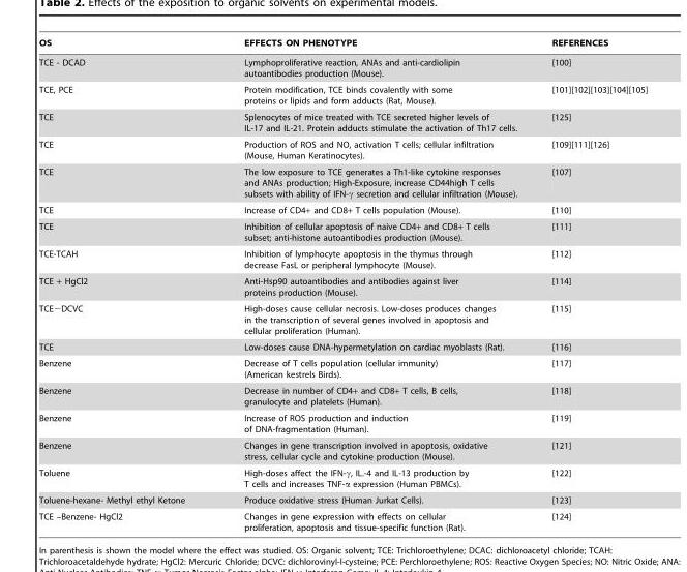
<table><thead><tr><td>OS</td><td>EFFECTS ON PHENOTYPE</td><td>REFERENCES</td></tr></thead><tbody><tr><td>TCE - DCAD</td><td>Lymphoproliferative reaction, ANAs and anti-cardiolipin autoantibodies production (Mouse).</td><td>[100]</td></tr><tr><td>TCE, PCE</td><td>Protein modification, TCE binds covalently with some proteins or lipids and form adducts (Rat, Mouse).</td><td>[101][102][103][104][105]</td></tr><tr><td>TCE</td><td>Splenocytes of mice treated with TCE secreted higher levels of IL-17 and IL-21. Protein adducts stimulate the activation of Th17 cells.</td><td>[125]</td></tr><tr><td>TCE</td><td>Production of ROS and NO, activation T cells; cellular infiltration (Mouse, Human Keratinocytes).</td><td>[109][111][126]</td></tr><tr><td>TCE</td><td>The low exposure to TCE generates a Th1-like cytokine responses and ANAs production; High-Exposure, increase CD44high T cells subsets with ability of IFN-γ secretion and cellular infiltration (Mouse).</td><td>[107]</td></tr><tr><td>TCE</td><td>Increase of CD4+ and CD8+ T cells population (Mouse).</td><td>[110]</td></tr><tr><td>TCE</td><td>Inhibition of cellular apoptosis of naive CD4+ and CD8+ T cells subset; anti-histone autoantibodies production (Mouse).</td><td>[111]</td></tr><tr><td>TCE-TCAH</td><td>Inhibition of lymphocyte apoptosis in the thymus through decrease FasL or peripheral lymphocyte (Mouse).</td><td>[112]</td></tr><tr><td>TCE + HgCl2</td><td>Anti-Hsp90 autoantibodies and antibodies against liver proteins production (Mouse).</td><td>[114]</td></tr><tr><td>TCE−DCVC</td><td>High-doses cause cellular necrosis. Low-doses produces changes in the transcription of several genes involved in apoptosis and cellular proliferation (Human).</td><td>[115]</td></tr><tr><td>TCE</td><td>Low-doses cause DNA-hypermetylation on cardiac myoblasts (Rat).</td><td>[116]</td></tr><tr><td>Benzene</td><td>Decrease of T cells population (cellular immunity) (American kestrels Birds).</td><td>[117]</td></tr><tr><td>Benzene</td><td>Decrease in number of CD4+ and CD8+ T cells, B cells, granulocyte and platelets (Human).</td><td>[118]</td></tr><tr><td>Benzene</td><td>Increase of ROS production and induction of DNA-fragmentation (Human).</td><td>[119]</td></tr><tr><td>Benzene</td><td>Changes in gene transcription involved in apoptosis, oxidative stress, cellular cycle and cytokine production (Mouse).</td><td>[121]</td></tr><tr><td>Toluene</td><td>High-doses affect the IFN-γ, IL.-4 and IL-13 production by T cells and increases TNF-α expression (Human PBMCs).</td><td>[122]</td></tr><tr><td>Toluene-hexane- Methyl ethyl Ketone</td><td>Produce oxidative stress (Human Jurkat Cells).</td><td>[123]</td></tr><tr><td>TCE –Benzene- HgCl2</td><td>Changes in gene expression with effects on cellular proliferation, apoptosis and tissue-specific function (Rat).</td><td>[124]</td></tr></tbody></table>